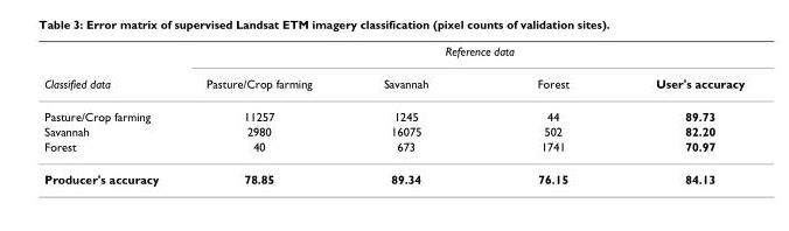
<table><thead><tr><td rowspan="2">Classified data</td><td colspan="4">Reference data</td></tr><tr><td>Pasture/Crop farming</td><td>Savannah</td><td>Forest</td><td>User&#x27;s accuracy</td></tr></thead><tbody><tr><td>Pasture/Crop farming</td><td>11257</td><td>1245</td><td>44</td><td>89.73</td></tr><tr><td>Savannah</td><td>2980</td><td>16075</td><td>502</td><td>82.20</td></tr><tr><td>Forest</td><td>40</td><td>673</td><td>1741</td><td>70.97</td></tr><tr><td>Producer&#x27;s accuracy</td><td>78.85</td><td>89.34</td><td>76.15</td><td>84.13</td></tr></tbody></table>